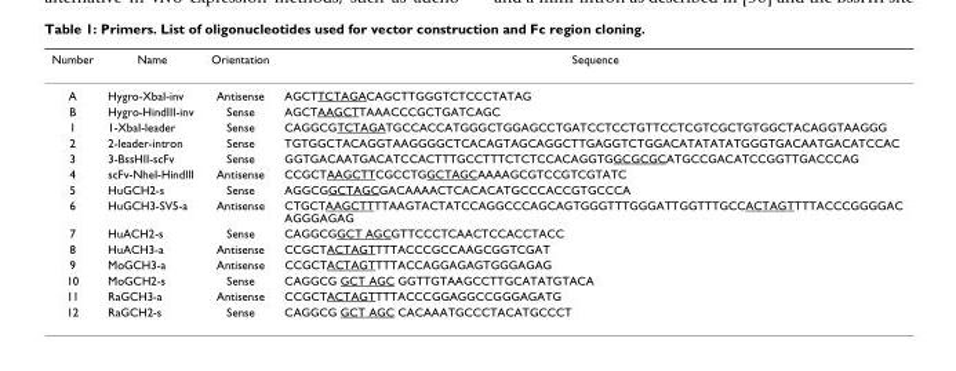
<table><thead><tr><td>Number</td><td>Name</td><td>Orientation</td><td>Sequence</td></tr></thead><tbody><tr><td>A</td><td>Hygro-XbaI-inv</td><td>Antisense</td><td>AGCTTCTAGACAGCTTGGGTCTCCCTATAG</td></tr><tr><td>B</td><td>Hygro-HindIII-inv</td><td>Sense</td><td>AGCTAAGCTTAAACCCGCTGATCAGC</td></tr><tr><td>1</td><td>1-XbaI-leader</td><td>Sense</td><td>CAGGCGTCTAGATGCCACCATGGGCTGGAGCCTGATCCTCCTGTTCCTCGTCGCTGTGGCTACAGGTAAGGG</td></tr><tr><td>2</td><td>2-leader-intron</td><td>Sense</td><td>TGTGGCTACAGGTAAGGGGCTCACAGTAGCAGGCTTGAGGTCTGGACATATATATGGGTGACAATGACATCCAC</td></tr><tr><td>3</td><td>3-BssHII-scFv</td><td>Sense</td><td>GGTGACAATGACATCCACTTTGCCTTTCTCTCCACAGGTGGCGCGCATGCCGACATCCGGTTGACCCAG</td></tr><tr><td>4</td><td>scFv-NheI-HindIII</td><td>Antisense</td><td>CCGCTAAGCTTCGCCTGGCTAGCAAAAGCGTCCGTCGTATC</td></tr><tr><td>5</td><td>HuGCH2-s</td><td>Sense</td><td>AGGCGGCTAGCGACAAAACTCACACATGCCCACCGTGCCCA</td></tr><tr><td>6</td><td>HuGCH3-SV5-a</td><td>Antisense</td><td>CTGCTAAGCTTTTAAGTACTATCCAGGCCCAGCAGTGGGTTTGGGATTGGTTTGCCACTAGTTTTACCCGGGGAC AGGGAGAG</td></tr><tr><td>7</td><td>HuACH2-s</td><td>Sense</td><td>CAGGCGGCT AGCGTTCCCTCAACTCCACCTACC</td></tr><tr><td>8</td><td>HuACH3-a</td><td>Antisense</td><td>CCGCTACTAGTTTTACCCGCCAAGCGGTCGAT</td></tr><tr><td>9</td><td>MoGCH3-a</td><td>Antisense</td><td>CCGCTACTAGTTTTACCAGGAGAGTGGGAGAG</td></tr><tr><td>10</td><td>MoGCH2-s</td><td>Sense</td><td>CAGGCG GCT AGC GGTTGTAAGCCTTGCATATGTACA</td></tr><tr><td>11</td><td>RaGCH3-a</td><td>Antisense</td><td>CCGCTACTAGTTTTACCCGGAGGCCGGGAGATG</td></tr><tr><td>12</td><td>RaGCH2-s</td><td>Sense</td><td>CAGGCG GCT AGC CACAAATGCCCTACATGCCCT</td></tr></tbody></table>